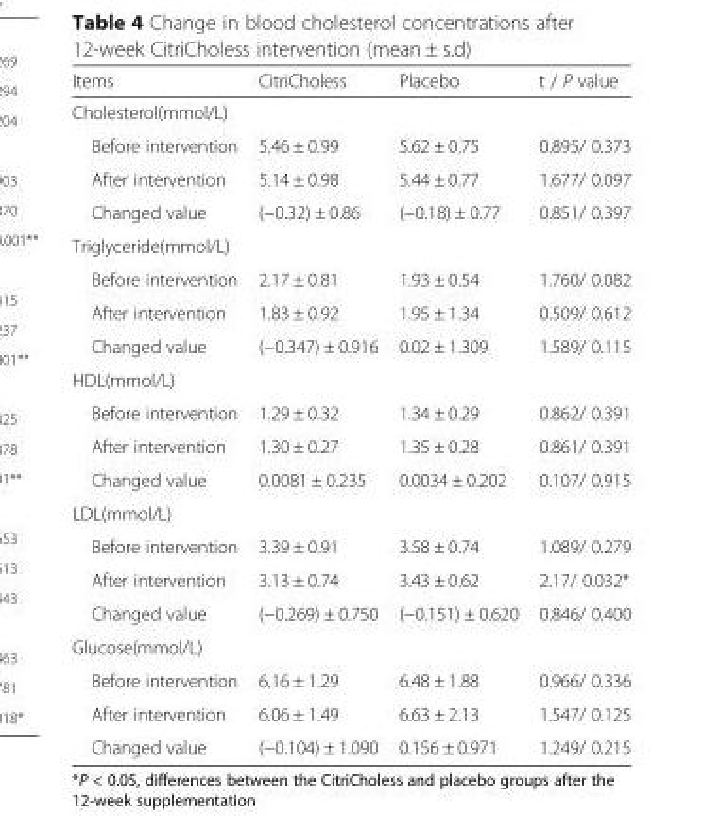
<table><thead><tr><td>Items</td><td>CitriCholess</td><td>Placebo</td><td>t / P value</td></tr></thead><tbody><tr><td colspan="4">Cholesterol(mmol/L)</td></tr><tr><td>Before intervention</td><td>5.46 ± 0.99</td><td>5.62 ± 0.75</td><td>0.895/ 0.373</td></tr><tr><td>After intervention</td><td>5.14 ± 0.98</td><td>5.44 ± 0.77</td><td>1.677/ 0.097</td></tr><tr><td>Changed value</td><td>(−0.32) ± 0.86</td><td>(−0.18) ± 0.77</td><td>0.851/ 0.397</td></tr><tr><td colspan="4">Triglyceride(mmol/L)</td></tr><tr><td>Before intervention</td><td>2.17 ± 0.81</td><td>1.93 ± 0.54</td><td>1.760/ 0.082</td></tr><tr><td>After intervention</td><td>1.83 ± 0.92</td><td>1.95 ± 1.34</td><td>0.509/ 0.612</td></tr><tr><td>Changed value</td><td>(−0.347) ± 0.916</td><td>0.02 ± 1.309</td><td>1.589/ 0.115</td></tr><tr><td colspan="4">HDL(mmol/L)</td></tr><tr><td>Before intervention</td><td>1.29 ± 0.32</td><td>1.34 ± 0.29</td><td>0.862/ 0.391</td></tr><tr><td>After intervention</td><td>1.30 ± 0.27</td><td>1.35 ± 0.28</td><td>0.861/ 0.391</td></tr><tr><td>Changed value</td><td>0.0081 ± 0.235</td><td>0.0034 ± 0.202</td><td>0.107/ 0.915</td></tr><tr><td colspan="4">LDL(mmol/L)</td></tr><tr><td>Before intervention</td><td>3.39 ± 0.91</td><td>3.58 ± 0.74</td><td>1.089/ 0.279</td></tr><tr><td>After intervention</td><td>3.13 ± 0.74</td><td>3.43 ± 0.62</td><td>2.17/ 0.032*</td></tr><tr><td>Changed value</td><td>(−0.269) ± 0.750</td><td>(−0.151) ± 0.620</td><td>0.846/ 0.400</td></tr><tr><td colspan="4">Glucose(mmol/L)</td></tr><tr><td>Before intervention</td><td>6.16 ± 1.29</td><td>6.48 ± 1.88</td><td>0.966/ 0.336</td></tr><tr><td>After intervention</td><td>6.06 ± 1.49</td><td>6.63 ± 2.13</td><td>1.547/ 0.125</td></tr><tr><td>Changed value</td><td>(−0.104) ± 1.090</td><td>0.156 ± 0.971</td><td>1.249/ 0.215</td></tr></tbody></table>